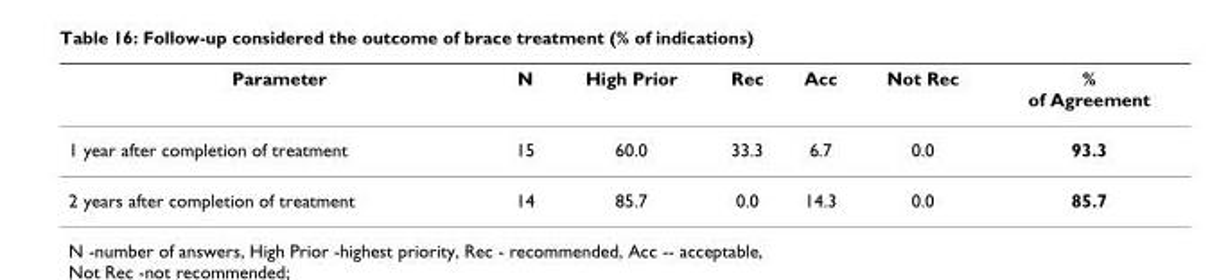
<table><thead><tr><td>Parameter</td><td>N</td><td>High Prior</td><td>Rec</td><td>Acc</td><td>Not Rec</td><td>% of Agreement</td></tr></thead><tbody><tr><td>1 year after completion of treatment</td><td>15</td><td>60.0</td><td>33.3</td><td>6.7</td><td>0.0</td><td>93.3</td></tr><tr><td>2 years after completion of treatment</td><td>14</td><td>85.7</td><td>0.0</td><td>14.3</td><td>0.0</td><td>85.7</td></tr></tbody></table>